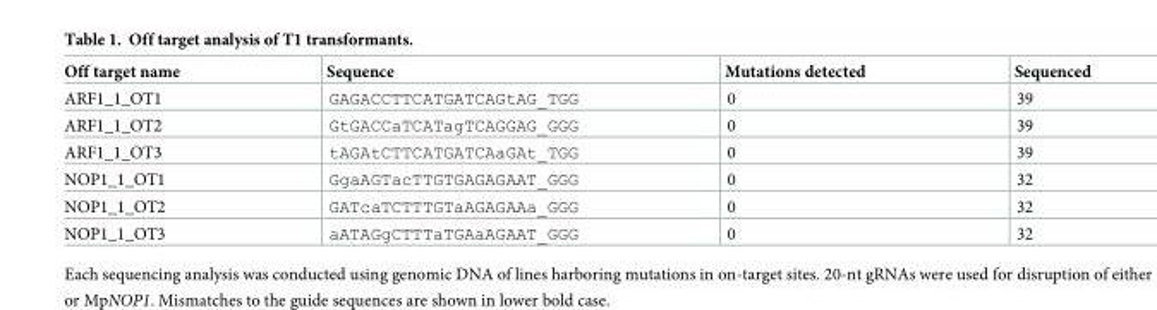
<table><thead><tr><td>Off target name</td><td>Sequence</td><td>Mutations detected</td><td>Sequenced</td></tr></thead><tbody><tr><td>ARF1_1_OT1</td><td>GAGACCTTCATGATCAGtAG_TGG</td><td>0</td><td>39</td></tr><tr><td>ARF1_1_OT2</td><td>GtGACCaTCATagTCAGGAG_GGG</td><td>0</td><td>39</td></tr><tr><td>ARF1_1_OT3</td><td>tAGAtCTTCATGATCAaGAt_TGG</td><td>0</td><td>39</td></tr><tr><td>NOP1_1_OT1</td><td>GgaAGTacTTGTGAGAGAAT_GGG</td><td>0</td><td>32</td></tr><tr><td>NOP1_1_OT2</td><td>GATcaTCTTTGTaAGAGAAa_GGG</td><td>0</td><td>32</td></tr><tr><td>NOP1_1_OT3</td><td>aATAGgCTTTaTGAaAGAAT_GGG</td><td>0</td><td>32</td></tr></tbody></table>